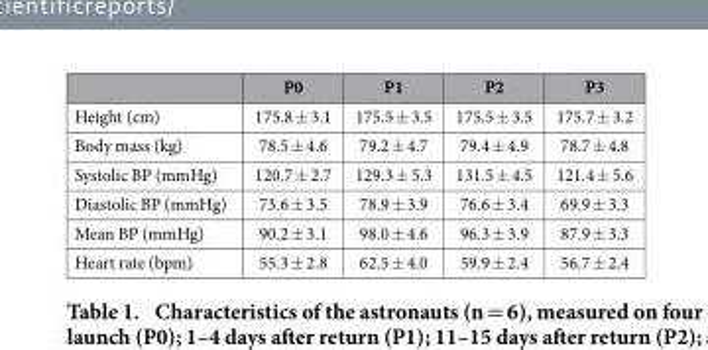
<table><thead><tr><td></td><td>P0</td><td>P1</td><td>P2</td><td>P3</td></tr></thead><tbody><tr><td>Height (cm)</td><td>175.8 ± 3.1</td><td>175.5 ± 3.5</td><td>175.5 ± 3.5</td><td>175.7 ± 3.2</td></tr><tr><td>Body mass (kg)</td><td>78.5 ± 4.6</td><td>79.2 ± 4.7</td><td>79.4 ± 4.9</td><td>78.7 ± 4.8</td></tr><tr><td>Systolic BP (mmHg)</td><td>120.7 ± 2.7</td><td>129.3 ± 5.3</td><td>131.5 ± 4.5</td><td>121.4 ± 5.6</td></tr><tr><td>Diastolic BP (mmHg)</td><td>73.6 ± 3.5</td><td>78.9 ± 3.9</td><td>76.6 ± 3.4</td><td>69.9 ± 3.3</td></tr><tr><td>Mean BP (mmHg)</td><td>90.2 ± 3.1</td><td>98.0 ± 4.6</td><td>96.3 ± 3.9</td><td>87.9 ± 3.3</td></tr><tr><td>Heart rate (bpm)</td><td>55.3 ± 2.8</td><td>62.5 ± 4.0</td><td>59.9 ± 2.4</td><td>56.7 ± 2.4</td></tr></tbody></table>